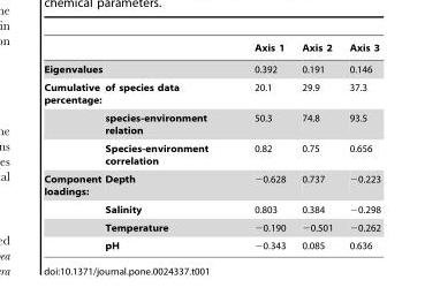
<table><thead><tr><td></td><td></td><td>Axis 1</td><td>Axis 2</td><td>Axis 3</td></tr></thead><tbody><tr><td>Eigenvalues</td><td></td><td>0.392</td><td>0.191</td><td>0.146</td></tr><tr><td rowspan="3">Cumulative percentage:</td><td>of species data</td><td>20.1</td><td>29.9</td><td>37.3</td></tr><tr><td>species-environment relation</td><td>50.3</td><td>74.8</td><td>93.5</td></tr><tr><td>Species-environment correlation</td><td>0.82</td><td>0.75</td><td>0.656</td></tr><tr><td rowspan="4">Component loadings:</td><td>Depth</td><td>−0.628</td><td>0.737</td><td>−0.223</td></tr><tr><td>Salinity</td><td>0.803</td><td>0.384</td><td>−0.298</td></tr><tr><td>Temperature</td><td>−0.190</td><td>−0.501</td><td>−0.262</td></tr><tr><td>pH</td><td>−0.343</td><td>0.085</td><td>0.636</td></tr></tbody></table>